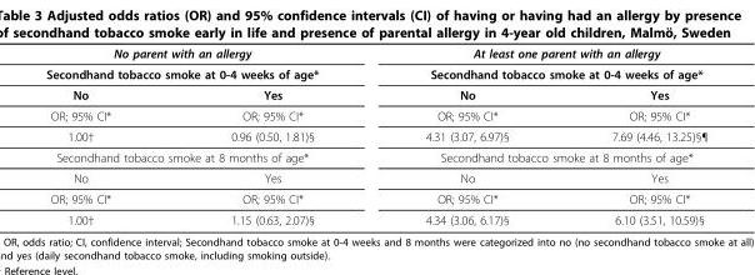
<table><thead><tr><td rowspan="2" colspan="2">No parent with an allergy Secondhand tobacco smoke at 0-4 weeks of age*</td><td rowspan="2" colspan="2">At least one parent with an allergy Secondhand tobacco smoke at 0-4 weeks of age*</td></tr><tr></tr><tr><td>No</td><td>Yes</td><td>No</td><td>Yes</td></tr></thead><tbody><tr><td>OR; 95% CI*</td><td>OR; 95% CI*</td><td>OR; 95% CI*</td><td>OR; 95% CI*</td></tr><tr><td>1.00†</td><td>0.96 (0.50, 1.81)§</td><td>4.31 (3.07, 6.97)§</td><td>7.69 (4.46, 13.25)§¶</td></tr><tr><td colspan="2">Secondhand tobacco smoke at 8 months of age*</td><td colspan="2">Secondhand tobacco smoke at 8 months of age*</td></tr><tr><td>No</td><td>Yes</td><td>No</td><td>Yes</td></tr><tr><td>OR; 95% CI*</td><td>OR; 95% CI*</td><td>OR; 95% CI*</td><td>OR; 95% CI*</td></tr><tr><td>1.00†</td><td>1.15 (0.63, 2.07)§</td><td>4.34 (3.06, 6.17)§</td><td>6.10 (3.51, 10.59)§</td></tr></tbody></table>